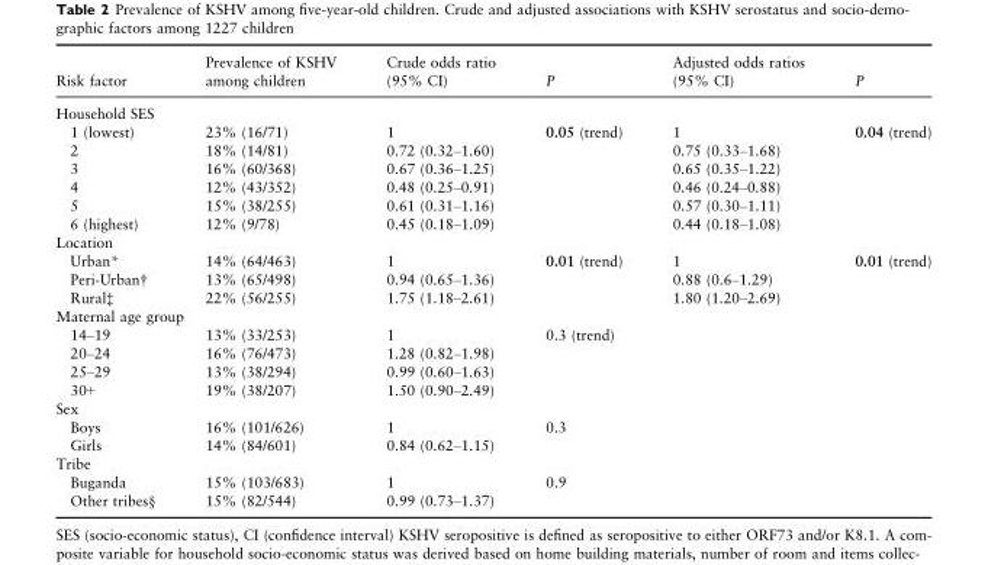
<table><thead><tr><td>Risk factor</td><td>Prevalence of KSHV among children</td><td>Crude odds ratio (95% CI)</td><td>P</td><td>Adjusted odds ratios (95% CI)</td><td>P</td></tr></thead><tbody><tr><td colspan="6">Household SES</td></tr><tr><td>1 (lowest)</td><td>23% (16/71)</td><td>1</td><td rowspan="6">0.05 (trend)</td><td>1</td><td rowspan="6">0.04 (trend)</td></tr><tr><td>2</td><td>18% (14/81)</td><td>0.72 (0.32–1.60)</td><td>0.75 (0.33–1.68)</td></tr><tr><td>3</td><td>16% (60/368)</td><td>0.67 (0.36–1.25)</td><td>0.65 (0.35–1.22)</td></tr><tr><td>4</td><td>12% (43/352)</td><td>0.48 (0.25–0.91)</td><td>0.46 (0.24–0.88)</td></tr><tr><td>5</td><td>15% (38/255)</td><td>0.61 (0.31–1.16)</td><td>0.57 (0.30–1.11)</td></tr><tr><td>6 (highest)</td><td>12% (9/78)</td><td>0.45 (0.18–1.09)</td><td>0.44 (0.18–1.08)</td></tr><tr><td colspan="6">Location</td></tr><tr><td>Urban*</td><td>14% (64/463)</td><td>1</td><td rowspan="3">0.01 (trend)</td><td>1</td><td rowspan="3">0.01 (trend)</td></tr><tr><td>Peri-Urban†</td><td>13% (65/498)</td><td>0.94 (0.65–1.36)</td><td>0.88 (0.6–1.29)</td></tr><tr><td>Rural‡</td><td>22% (56/255)</td><td>1.75 (1.18–2.61)</td><td>1.80 (1.20–2.69)</td></tr><tr><td colspan="6">Maternal age group</td></tr><tr><td>14–19</td><td>13% (33/253)</td><td>1</td><td rowspan="4">0.3 (trend)</td><td></td><td></td></tr><tr><td>20–24</td><td>16% (76/473)</td><td>1.28 (0.82–1.98)</td><td></td><td></td></tr><tr><td>25–29</td><td>13% (38/294)</td><td>0.99 (0.60–1.63)</td><td></td><td></td></tr><tr><td>30+</td><td>19% (38/207)</td><td>1.50 (0.90–2.49)</td><td></td><td></td></tr><tr><td colspan="6">Sex</td></tr><tr><td>Boys</td><td>16% (101/626)</td><td>1</td><td rowspan="2">0.3</td><td></td><td></td></tr><tr><td>Girls</td><td>14% (84/601)</td><td>0.84 (0.62–1.15)</td><td></td><td></td></tr><tr><td colspan="6">Tribe</td></tr><tr><td>Buganda</td><td>15% (103/683)</td><td>1</td><td rowspan="2">0.9</td><td></td><td></td></tr><tr><td>Other tribes§</td><td>15% (82/544)</td><td>0.99 (0.73–1.37)</td><td></td><td></td></tr></tbody></table>